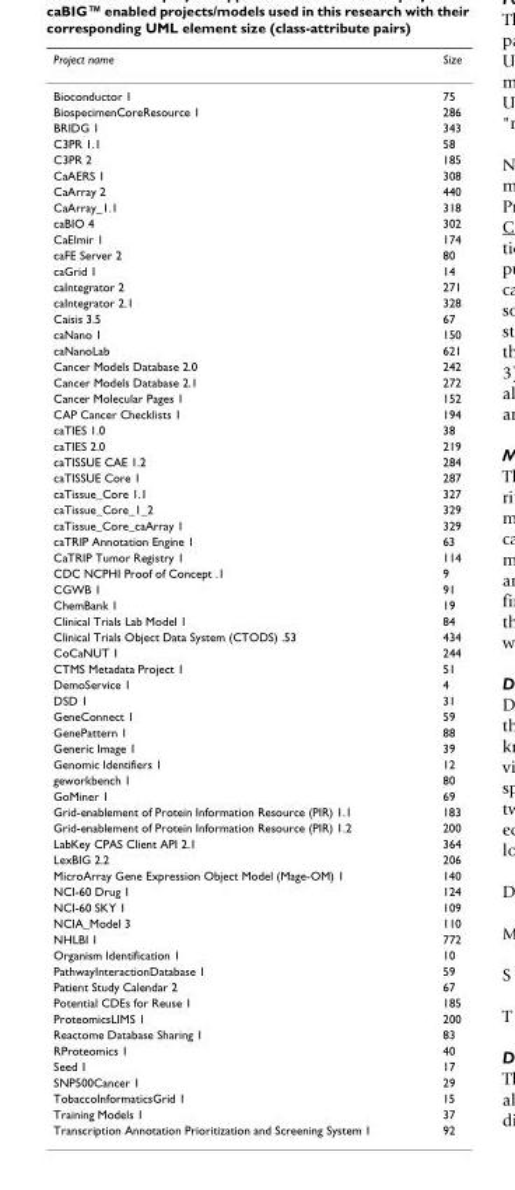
<table><thead><tr><td>Project name</td><td>Size</td></tr></thead><tbody><tr><td>Bioconductor 1</td><td>75</td></tr><tr><td>BiospecimenCoreResource 1</td><td>286</td></tr><tr><td>BRIDG 1</td><td>343</td></tr><tr><td>C3PR 1.1</td><td>58</td></tr><tr><td>C3PR 2</td><td>185</td></tr><tr><td>CaAERS 1</td><td>308</td></tr><tr><td>CaArray 2</td><td>440</td></tr><tr><td>CaArray_1.1</td><td>318</td></tr><tr><td>caBIO 4</td><td>302</td></tr><tr><td>CaElmir 1</td><td>174</td></tr><tr><td>caFE Server 2</td><td>80</td></tr><tr><td>caGrid 1</td><td>14</td></tr><tr><td>caIntegrator 2</td><td>271</td></tr><tr><td>caIntegrator 2.1</td><td>328</td></tr><tr><td>Caisis 3.5</td><td>67</td></tr><tr><td>caNano 1</td><td>150</td></tr><tr><td>caNanoLab</td><td>621</td></tr><tr><td>Cancer Models Database 2.0</td><td>242</td></tr><tr><td>Cancer Models Database 2.1</td><td>272</td></tr><tr><td>Cancer Molecular Pages 1</td><td>152</td></tr><tr><td>CAP Cancer Checklists 1</td><td>194</td></tr><tr><td>caTIES 1.0</td><td>38</td></tr><tr><td>caTIES 2.0</td><td>219</td></tr><tr><td>caTISSUE CAE 1.2</td><td>284</td></tr><tr><td>caTISSUE Core 1</td><td>287</td></tr><tr><td>caTissue_Core 1.1</td><td>327</td></tr><tr><td>caTissue_Core_1_2</td><td>329</td></tr><tr><td>caTissue_Core_caArray 1</td><td>329</td></tr><tr><td>caTRIP Annotation Engine 1</td><td>63</td></tr><tr><td>CaTRIP Tumor Registry 1</td><td>114</td></tr><tr><td>CDC NCPHI Proof of Concept .1</td><td>9</td></tr><tr><td>CGWB 1</td><td>91</td></tr><tr><td>ChemBank 1</td><td>19</td></tr><tr><td>Clinical Trials Lab Model 1</td><td>84</td></tr><tr><td>Clinical Trials Object Data System (CTODS) .53</td><td>434</td></tr><tr><td>CoCaNUT 1</td><td>244</td></tr><tr><td>CTMS Metadata Project 1</td><td>51</td></tr><tr><td>DemoService 1</td><td>4</td></tr><tr><td>DSD 1</td><td>31</td></tr><tr><td>GeneConnect 1</td><td>59</td></tr><tr><td>GenePattern 1</td><td>88</td></tr><tr><td>Generic Image 1</td><td>39</td></tr><tr><td>Genomic Identifiers 1</td><td>12</td></tr><tr><td>geworkbench 1</td><td>80</td></tr><tr><td>GoMiner 1</td><td>69</td></tr><tr><td>Grid-enablement of Protein Information Resource (PIR) 1.1</td><td>183</td></tr><tr><td>Grid-enablement of Protein Information Resource (PIR) 1.2</td><td>200</td></tr><tr><td>LabKey CPAS Client API 2.1</td><td>364</td></tr><tr><td>LexBIG 2.2</td><td>206</td></tr><tr><td>MicroArray Gene Expression Object Model (Mage-OM) 1</td><td>140</td></tr><tr><td>NCI-60 Drug 1</td><td>124</td></tr><tr><td>NCI-60 SKY 1</td><td>109</td></tr><tr><td>NCIA_Model 3</td><td>110</td></tr><tr><td>NHLBI 1</td><td>772</td></tr><tr><td>Organism Identification 1</td><td>10</td></tr><tr><td>PathwayInteractionDatabase 1</td><td>59</td></tr><tr><td>Patient Study Calendar 2</td><td>67</td></tr><tr><td>Potential CDEs for Reuse 1</td><td>185</td></tr><tr><td>ProteomicsLIMS 1</td><td>200</td></tr><tr><td>Reactome Database Sharing 1</td><td>83</td></tr><tr><td>RProteomics 1</td><td>40</td></tr><tr><td>Seed 1</td><td>17</td></tr><tr><td>SNP500Cancer 1</td><td>29</td></tr><tr><td>TobaccoInformaticsGrid 1</td><td>15</td></tr><tr><td>Training Models 1</td><td>37</td></tr><tr><td>Transcription Annotation Prioritization and Screening System 1</td><td>92</td></tr></tbody></table>